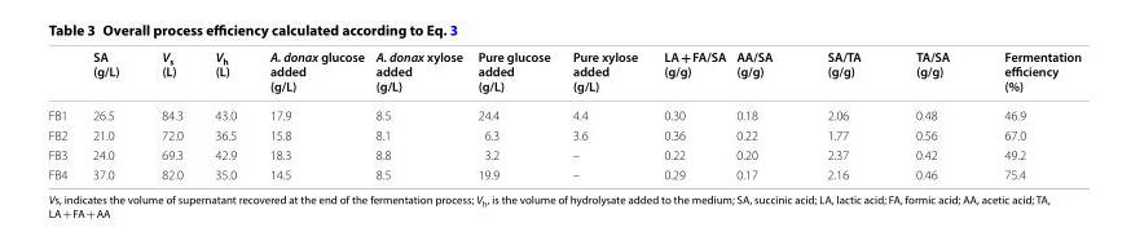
<table><thead><tr><td></td><td>SA (g/L)</td><td>V<sub>s</sub> (L)</td><td>V<sub>h</sub> (L)</td><td>A. donax glucose added (g/L)</td><td>A. donax xylose added (g/L)</td><td>Pure glucose added (g/L)</td><td>Pure xylose added (g/L)</td><td>LA + FA/SA (g/g)</td><td>AA/SA (g/g)</td><td>SA/TA (g/g)</td><td>TA/SA (g/g)</td><td>Fermentation efficiency (%)</td></tr></thead><tbody><tr><td>FB1</td><td>26.5</td><td>84.3</td><td>43.0</td><td>17.9</td><td>8.5</td><td>24.4</td><td>4.4</td><td>0.30</td><td>0.18</td><td>2.06</td><td>0.48</td><td>46.9</td></tr><tr><td>FB2</td><td>21.0</td><td>72.0</td><td>36.5</td><td>15.8</td><td>8.1</td><td>6.3</td><td>3.6</td><td>0.36</td><td>0.22</td><td>1.77</td><td>0.56</td><td>67.0</td></tr><tr><td>FB3</td><td>24.0</td><td>69.3</td><td>42.9</td><td>18.3</td><td>8.8</td><td>3.2</td><td>–</td><td>0.22</td><td>0.20</td><td>2.37</td><td>0.42</td><td>49.2</td></tr><tr><td>FB4</td><td>37.0</td><td>82.0</td><td>35.0</td><td>14.5</td><td>8.5</td><td>19.9</td><td>–</td><td>0.29</td><td>0.17</td><td>2.16</td><td>0.46</td><td>75.4</td></tr></tbody></table>